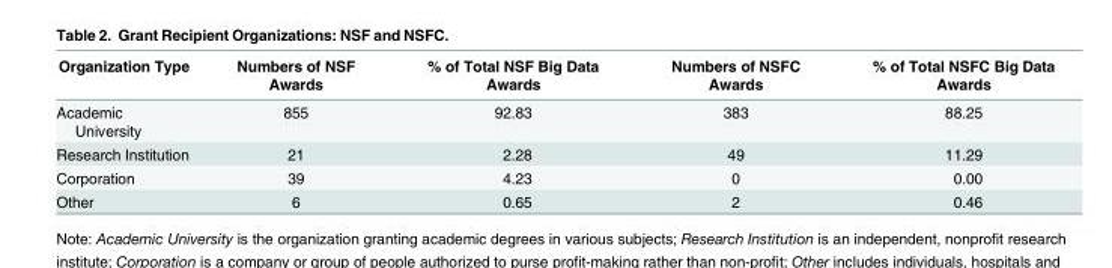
<table><thead><tr><td>Organization Type</td><td>Numbers of NSF Awards</td><td>% of Total NSF Big Data Awards</td><td>Numbers of NSFC Awards</td><td>% of Total NSFC Big Data Awards</td></tr></thead><tbody><tr><td>Academic University</td><td>855</td><td>92.83</td><td>383</td><td>88.25</td></tr><tr><td>Research Institution</td><td>21</td><td>2.28</td><td>49</td><td>11.29</td></tr><tr><td>Corporation</td><td>39</td><td>4.23</td><td>0</td><td>0.00</td></tr><tr><td>Other</td><td>6</td><td>0.65</td><td>2</td><td>0.46</td></tr></tbody></table>